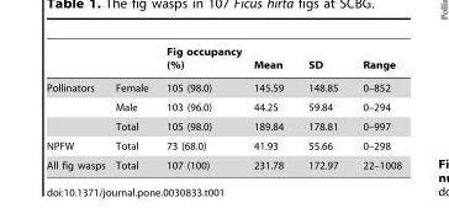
<table><thead><tr><td></td><td></td><td>Fig occupancy (%)</td><td>Mean</td><td>SD</td><td>Range</td></tr></thead><tbody><tr><td rowspan="3">Pollinators</td><td>Female</td><td>105 (98.0)</td><td>145.59</td><td>148.85</td><td>0–852</td></tr><tr><td>Male</td><td>103 (96.0)</td><td>44.25</td><td>59.84</td><td>0–294</td></tr><tr><td>Total</td><td>105 (98.0)</td><td>189.84</td><td>178.81</td><td>0–997</td></tr><tr><td>NPFW</td><td>Total</td><td>73 (68.0)</td><td>41.93</td><td>55.66</td><td>0–298</td></tr><tr><td>All fig wasps</td><td>Total</td><td>107 (100)</td><td>231.78</td><td>172.97</td><td>22–1008</td></tr></tbody></table>